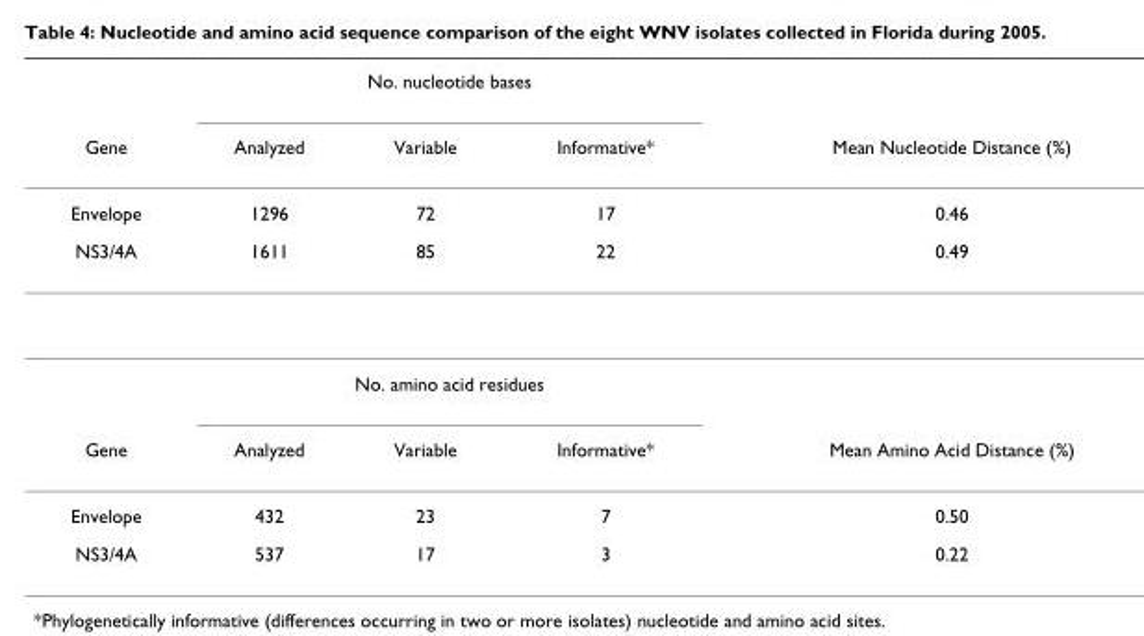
<table><thead><tr><td rowspan="2">Gene</td><td colspan="3">No. nucleotide bases</td><td rowspan="2">Mean Nucleotide Distance (%)</td></tr><tr><td>Analyzed</td><td>Variable</td><td>Informative*</td></tr></thead><tbody><tr><td>Envelope</td><td>1296</td><td>72</td><td>17</td><td>0.46</td></tr><tr><td rowspan="2">NS3/4A</td><td>1611</td><td>85</td><td>22</td><td>0.49</td></tr><tr><td colspan="3">No. amino acid residues</td><td></td></tr><tr><td>Gene</td><td>Analyzed</td><td>Variable</td><td>Informative*</td><td>Mean Amino Acid Distance (%)</td></tr><tr><td>Envelope</td><td>432</td><td>23</td><td>7</td><td>0.50</td></tr><tr><td>NS3/4A</td><td>537</td><td>17</td><td>3</td><td>0.22</td></tr></tbody></table>